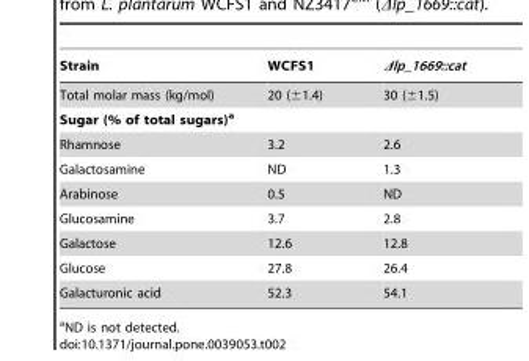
<table><thead><tr><td>Strain</td><td>WCFS1</td><td>Δlp_1669::cat</td></tr></thead><tbody><tr><td>Total molar mass (kg/mol)</td><td>20 (±1.4)</td><td>30 (±1.5)</td></tr><tr><td colspan="3">Sugar (% of total sugars)a</td></tr><tr><td>Rhamnose</td><td>3.2</td><td>2.6</td></tr><tr><td>Galactosamine</td><td>ND</td><td>1.3</td></tr><tr><td>Arabinose</td><td>0.5</td><td>ND</td></tr><tr><td>Glucosamine</td><td>3.7</td><td>2.8</td></tr><tr><td>Galactose</td><td>12.6</td><td>12.8</td></tr><tr><td>Glucose</td><td>27.8</td><td>26.4</td></tr><tr><td>Galacturonic acid</td><td>52.3</td><td>54.1</td></tr></tbody></table>